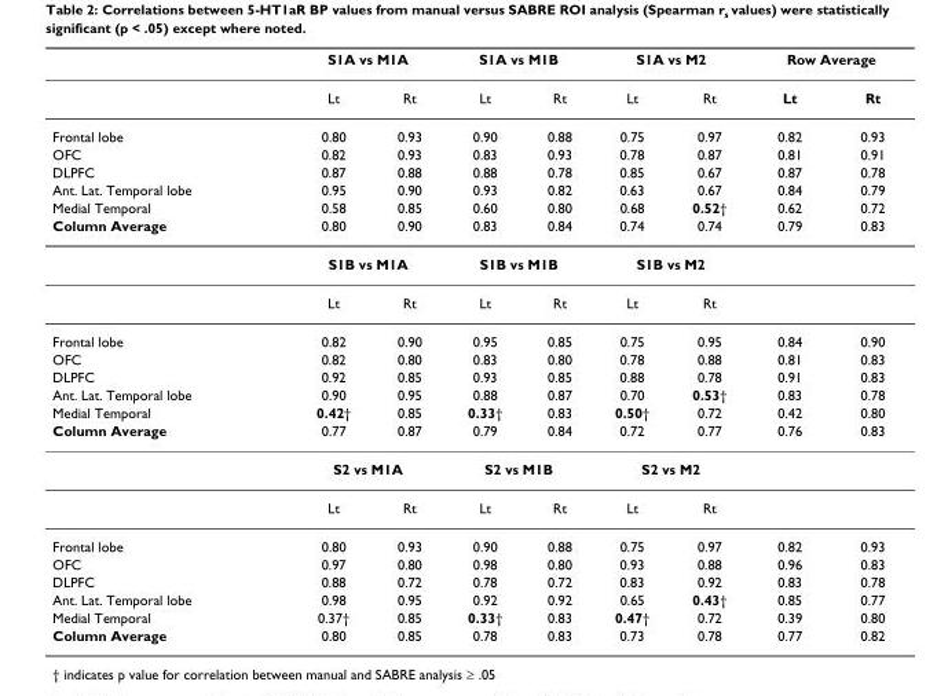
<table><thead><tr><td rowspan="2"></td><td colspan="2">S1A vs M1A</td><td colspan="2">S1A vs M1B</td><td colspan="2">S1A vs M2</td><td colspan="2">Row Average</td></tr><tr><td>Lt</td><td>Rt</td><td>Lt</td><td>Rt</td><td>Lt</td><td>Rt</td><td>Lt</td><td>Rt</td></tr></thead><tbody><tr><td>Frontal lobe</td><td>0.80</td><td>0.93</td><td>0.90</td><td>0.88</td><td>0.75</td><td>0.97</td><td>0.82</td><td>0.93</td></tr><tr><td>OFC</td><td>0.82</td><td>0.93</td><td>0.83</td><td>0.93</td><td>0.78</td><td>0.87</td><td>0.81</td><td>0.91</td></tr><tr><td>DLPFC</td><td>0.87</td><td>0.88</td><td>0.88</td><td>0.78</td><td>0.85</td><td>0.67</td><td>0.87</td><td>0.78</td></tr><tr><td>Ant. Lat. Temporal lobe</td><td>0.95</td><td>0.90</td><td>0.93</td><td>0.82</td><td>0.63</td><td>0.67</td><td>0.84</td><td>0.79</td></tr><tr><td>Medial Temporal</td><td>0.58</td><td>0.85</td><td>0.60</td><td>0.80</td><td>0.68</td><td>0.52†</td><td>0.62</td><td>0.72</td></tr><tr><td rowspan="3">Column Average</td><td>0.80</td><td>0.90</td><td>0.83</td><td>0.84</td><td>0.74</td><td>0.74</td><td>0.79</td><td>0.83</td></tr><tr><td colspan="2">S1B vs M1A</td><td colspan="2">S1B vs M1B</td><td colspan="2">S1B vs M2</td><td></td><td></td></tr><tr><td>Lt</td><td>Rt</td><td>Lt</td><td>Rt</td><td>Lt</td><td>Rt</td><td></td><td></td></tr><tr><td>Frontal lobe</td><td>0.82</td><td>0.90</td><td>0.95</td><td>0.85</td><td>0.75</td><td>0.95</td><td>0.84</td><td>0.90</td></tr><tr><td>OFC</td><td>0.82</td><td>0.80</td><td>0.83</td><td>0.80</td><td>0.78</td><td>0.88</td><td>0.81</td><td>0.83</td></tr><tr><td>DLPFC</td><td>0.92</td><td>0.85</td><td>0.93</td><td>0.85</td><td>0.88</td><td>0.78</td><td>0.91</td><td>0.83</td></tr><tr><td>Ant. Lat. Temporal lobe</td><td>0.90</td><td>0.95</td><td>0.88</td><td>0.87</td><td>0.70</td><td>0.53†</td><td>0.83</td><td>0.78</td></tr><tr><td>Medial Temporal</td><td>0.42†</td><td>0.85</td><td>0.33†</td><td>0.83</td><td>0.50†</td><td>0.72</td><td>0.42</td><td>0.80</td></tr><tr><td rowspan="3">Column Average</td><td>0.77</td><td>0.87</td><td>0.79</td><td>0.84</td><td>0.72</td><td>0.77</td><td>0.76</td><td>0.83</td></tr><tr><td colspan="2">S2 vs M1A</td><td colspan="2">S2 vs M1B</td><td colspan="2">S2 vs M2</td><td></td><td></td></tr><tr><td>Lt</td><td>Rt</td><td>Lt</td><td>Rt</td><td>Lt</td><td>Rt</td><td></td><td></td></tr><tr><td>Frontal lobe</td><td>0.80</td><td>0.93</td><td>0.90</td><td>0.88</td><td>0.75</td><td>0.97</td><td>0.82</td><td>0.93</td></tr><tr><td>OFC</td><td>0.97</td><td>0.80</td><td>0.98</td><td>0.80</td><td>0.93</td><td>0.88</td><td>0.96</td><td>0.83</td></tr><tr><td>DLPFC</td><td>0.88</td><td>0.72</td><td>0.78</td><td>0.72</td><td>0.83</td><td>0.92</td><td>0.83</td><td>0.78</td></tr><tr><td>Ant. Lat. Temporal lobe</td><td>0.98</td><td>0.95</td><td>0.92</td><td>0.92</td><td>0.65</td><td>0.43†</td><td>0.85</td><td>0.77</td></tr><tr><td>Medial Temporal</td><td>0.37†</td><td>0.85</td><td>0.33†</td><td>0.83</td><td>0.47†</td><td>0.72</td><td>0.39</td><td>0.80</td></tr><tr><td>Column Average</td><td>0.80</td><td>0.85</td><td>0.78</td><td>0.83</td><td>0.73</td><td>0.78</td><td>0.77</td><td>0.82</td></tr></tbody></table>